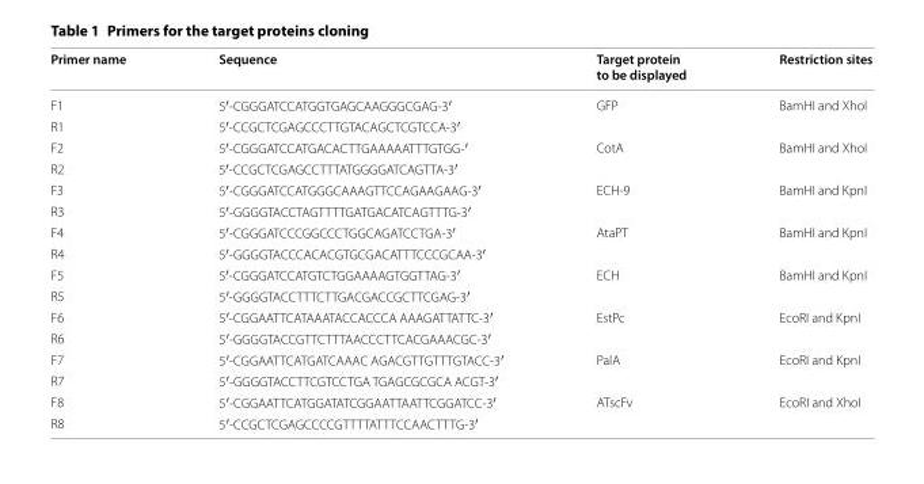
<table><thead><tr><td>Primer name</td><td>Sequence</td><td>Target protein to be displayed</td><td>Restriction sites</td></tr></thead><tbody><tr><td>F1</td><td>5′-CGGGATCCATGGTGAGCAAGGGCGAG-3′</td><td rowspan="2">GFP</td><td rowspan="2">BamHI and XhoI</td></tr><tr><td>R1</td><td>5′-CCGCTCGAGCCCTTGTACAGCTCGTCCA-3′</td></tr><tr><td>F2</td><td>5′-CGGGATCCATGACACTTGAAAAATTTGTGG-′</td><td rowspan="2">CotA</td><td rowspan="2">BamHI and XhoI</td></tr><tr><td>R2</td><td>5′-CCGCTCGAGCCTTTATGGGGATCAGTTA-3′</td></tr><tr><td>F3</td><td>5′-CGGGATCCATGGGCAAAGTTCCAGAAGAAG-3′</td><td rowspan="2">ECH-9</td><td rowspan="2">BamHI and KpnI</td></tr><tr><td>R3</td><td>5′-GGGGTACCTAGTTTTGATGACATCAGTTTG-3′</td></tr><tr><td>F4</td><td>5′-CGGGATCCCGGCCCTGGCAGATCCTGA-3′</td><td rowspan="2">AtaPT</td><td rowspan="2">BamHI and KpnI</td></tr><tr><td>R4</td><td>5′-GGGGTACCCACACGTGCGACATTTCCCGCAA-3′</td></tr><tr><td>F5</td><td>5′-CGGGATCCATGTCTGGAAAAGTGGTTAG-3′</td><td rowspan="2">ECH</td><td rowspan="2">BamHI and KpnI</td></tr><tr><td>R5</td><td>5′-GGGGTACCTTTCTTGACGACCGCTTCGAG-3′</td></tr><tr><td>F6</td><td>5′-CGGAATTCATAAATACCACCCA AAAGATTATTC-3′</td><td rowspan="2">EstPc</td><td rowspan="2">EcoRI and KpnI</td></tr><tr><td>R6</td><td>5′-GGGGTACCGTTCTTTAACCCTTCACGAAACGC-3′</td></tr><tr><td>F7</td><td>5′-CGGAATTCATGATCAAAC AGACGTTGTTTGTACC-3′</td><td rowspan="2">PalA</td><td rowspan="2">EcoRI and KpnI</td></tr><tr><td>R7</td><td>5′-GGGGTACCTTCGTCCTGA TGAGCGCGCA ACGT-3′</td></tr><tr><td>F8</td><td>5′-CGGAATTCATGGATATCGGAATTAATTCGGATCC-3′</td><td rowspan="2">ATscFv</td><td rowspan="2">EcoRI and XhoI</td></tr><tr><td>R8</td><td>5′-CCGCTCGAGCCCCGTTTTATTTCCAACTTTG-3′</td></tr></tbody></table>